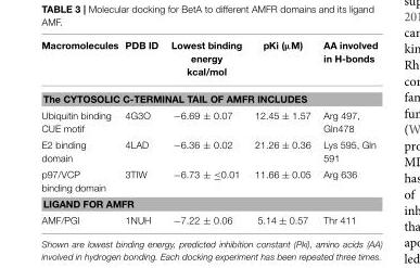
<table><thead><tr><td>Macromolecules</td><td>PDB ID</td><td>Lowest binding energy kcal/mol</td><td>pKi (µM)</td><td>AA involved in H-bonds</td></tr></thead><tbody><tr><td colspan="5">The CYTOSOLIC C-TERMINAL TAIL OF AMFR INCLUDES</td></tr><tr><td>Ubiquitin binding CUE motif</td><td>4G3O</td><td>−6.69 ± 0.07</td><td>12.45 ± 1.57</td><td>Arg 497, Gln478</td></tr><tr><td>E2 binding domain</td><td>4LAD</td><td>−6.36 ± 0.02</td><td>21.26 ± 0.36</td><td>Lys 595, Gln 591</td></tr><tr><td>p97/VCP binding domain</td><td>3TIW</td><td>−6.73 ± ≤0.01</td><td>11.66 ± 0.05</td><td>Arg 636</td></tr><tr><td colspan="5">LIGAND FOR AMFR</td></tr><tr><td>AMF/PGI</td><td>1NUH</td><td>−7.22 ± 0.06</td><td>5.14 ± 0.57</td><td>Thr 411</td></tr></tbody></table>